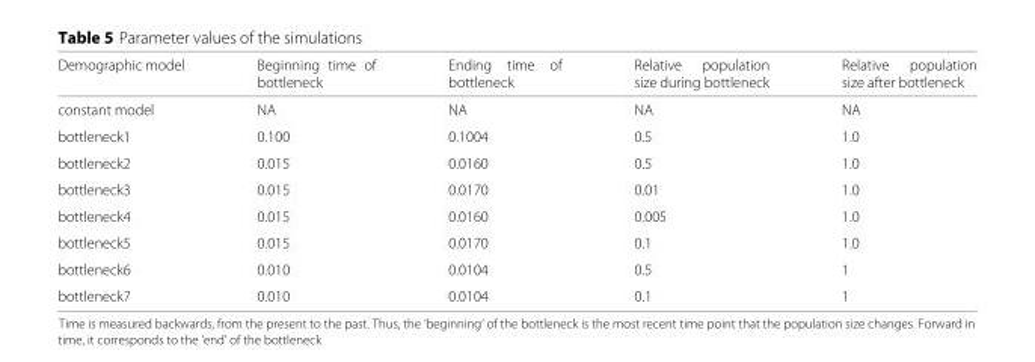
<table><thead><tr><td>Demographic model</td><td>Beginning time of bottleneck</td><td>Ending time of bottleneck</td><td>Relative population size during bottleneck</td><td>Relative population size after bottleneck</td></tr></thead><tbody><tr><td>constant model</td><td>NA</td><td>NA</td><td>NA</td><td>NA</td></tr><tr><td>bottleneck1</td><td>0.100</td><td>0.1004</td><td>0.5</td><td>1.0</td></tr><tr><td>bottleneck2</td><td>0.015</td><td>0.0160</td><td>0.5</td><td>1.0</td></tr><tr><td>bottleneck3</td><td>0.015</td><td>0.0170</td><td>0.01</td><td>1.0</td></tr><tr><td>bottleneck4</td><td>0.015</td><td>0.0160</td><td>0.005</td><td>1.0</td></tr><tr><td>bottleneck5</td><td>0.015</td><td>0.0170</td><td>0.1</td><td>1.0</td></tr><tr><td>bottleneck6</td><td>0.010</td><td>0.0104</td><td>0.5</td><td>1</td></tr><tr><td>bottleneck7</td><td>0.010</td><td>0.0104</td><td>0.1</td><td>1</td></tr></tbody></table>